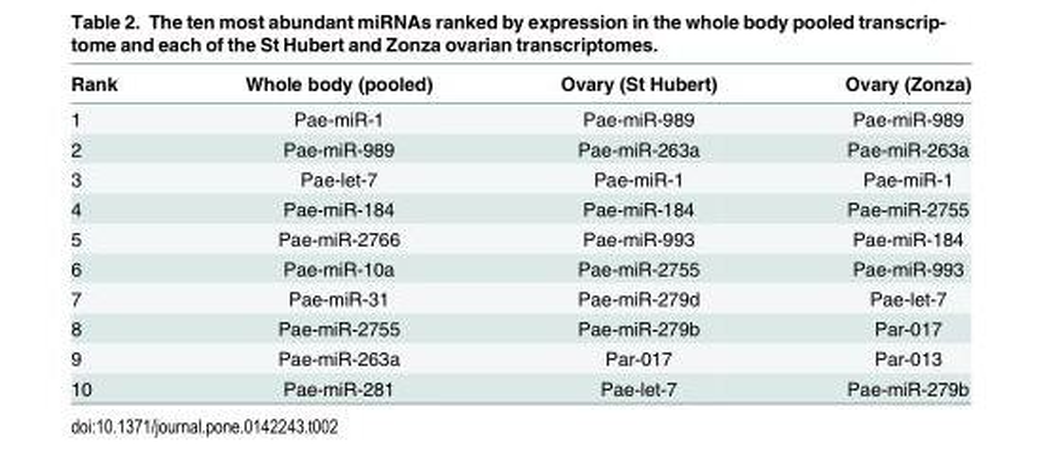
<table><thead><tr><td>Rank</td><td>Whole body (pooled)</td><td>Ovary (St Hubert)</td><td>Ovary (Zonza)</td></tr></thead><tbody><tr><td>1</td><td>Pae-miR-1</td><td>Pae-miR-989</td><td>Pae-miR-989</td></tr><tr><td>2</td><td>Pae-miR-989</td><td>Pae-miR-263a</td><td>Pae-miR-263a</td></tr><tr><td>3</td><td>Pae-let-7</td><td>Pae-miR-1</td><td>Pae-miR-1</td></tr><tr><td>4</td><td>Pae-miR-184</td><td>Pae-miR-184</td><td>Pae-miR-2755</td></tr><tr><td>5</td><td>Pae-miR-2766</td><td>Pae-miR-993</td><td>Pae-miR-184</td></tr><tr><td>6</td><td>Pae-miR-10a</td><td>Pae-miR-2755</td><td>Pae-miR-993</td></tr><tr><td>7</td><td>Pae-miR-31</td><td>Pae-miR-279d</td><td>Pae-let-7</td></tr><tr><td>8</td><td>Pae-miR-2755</td><td>Pae-miR-279b</td><td>Par-017</td></tr><tr><td>9</td><td>Pae-miR-263a</td><td>Par-017</td><td>Par-013</td></tr><tr><td>10</td><td>Pae-miR-281</td><td>Pae-let-7</td><td>Pae-miR-279b</td></tr></tbody></table>